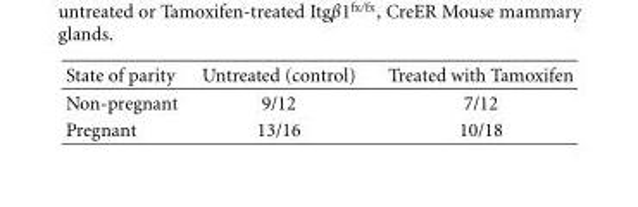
<table><thead><tr><td>State of parity</td><td>Untreated (control)</td><td>Treated with Tamoxifen</td></tr></thead><tbody><tr><td>Non-pregnant</td><td>9/12</td><td>7/12</td></tr><tr><td>Pregnant</td><td>13/16</td><td>10/18</td></tr></tbody></table>